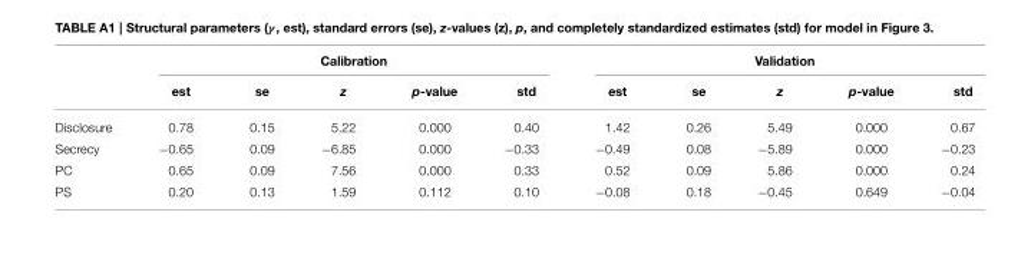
<table><thead><tr><td rowspan="2"></td><td colspan="5">Calibration</td><td colspan="5">Validation</td></tr><tr><td>est</td><td>se</td><td>z</td><td>p-value</td><td>std</td><td>est</td><td>se</td><td>z</td><td>p-value</td><td>std</td></tr></thead><tbody><tr><td>Disclosure</td><td>0.78</td><td>0.15</td><td>5.22</td><td>0.000</td><td>0.40</td><td>1.42</td><td>0.26</td><td>5.49</td><td>0.000</td><td>0.67</td></tr><tr><td>Secrecy</td><td>−0.65</td><td>0.09</td><td>−6.85</td><td>0.000</td><td>−0.33</td><td>−0.49</td><td>0.08</td><td>−5.89</td><td>0.000</td><td>−0.23</td></tr><tr><td>PC</td><td>0.65</td><td>0.09</td><td>7.56</td><td>0.000</td><td>0.33</td><td>0.52</td><td>0.09</td><td>5.86</td><td>0.000</td><td>0.24</td></tr><tr><td>PS</td><td>0.20</td><td>0.13</td><td>1.59</td><td>0.112</td><td>0.10</td><td>−0.08</td><td>0.18</td><td>−0.45</td><td>0.649</td><td>−0.04</td></tr></tbody></table>